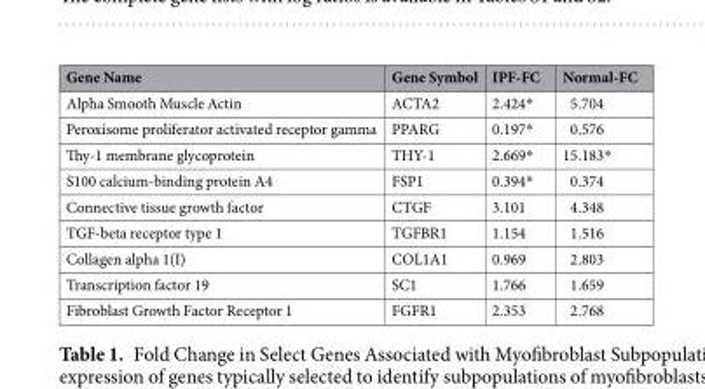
<table><thead><tr><td>Gene Name</td><td>Gene Symbol</td><td>IPF-FC</td><td>Normal-FC</td></tr></thead><tbody><tr><td>Alpha Smooth Muscle Actin</td><td>ACTA2</td><td>2.424*</td><td>5.704</td></tr><tr><td>Peroxisome proliferator activated receptor gamma</td><td>PPARG</td><td>0.197*</td><td>0.576</td></tr><tr><td>Thy-1 membrane glycoprotein</td><td>THY-1</td><td>2.669*</td><td>15.183*</td></tr><tr><td>S100 calcium-binding protein A4</td><td>FSP1</td><td>0.394*</td><td>0.374</td></tr><tr><td>Connective tissue growth factor</td><td>CTGF</td><td>3.101</td><td>4.348</td></tr><tr><td>TGF-beta receptor type 1</td><td>TGFBR1</td><td>1.154</td><td>1.516</td></tr><tr><td>Collagen alpha 1(I)</td><td>COL1A1</td><td>0.969</td><td>2.803</td></tr><tr><td>Transcription factor 19</td><td>SC1</td><td>1.766</td><td>1.659</td></tr><tr><td>Fibroblast Growth Factor Receptor 1</td><td>FGFR1</td><td>2.353</td><td>2.768</td></tr></tbody></table>